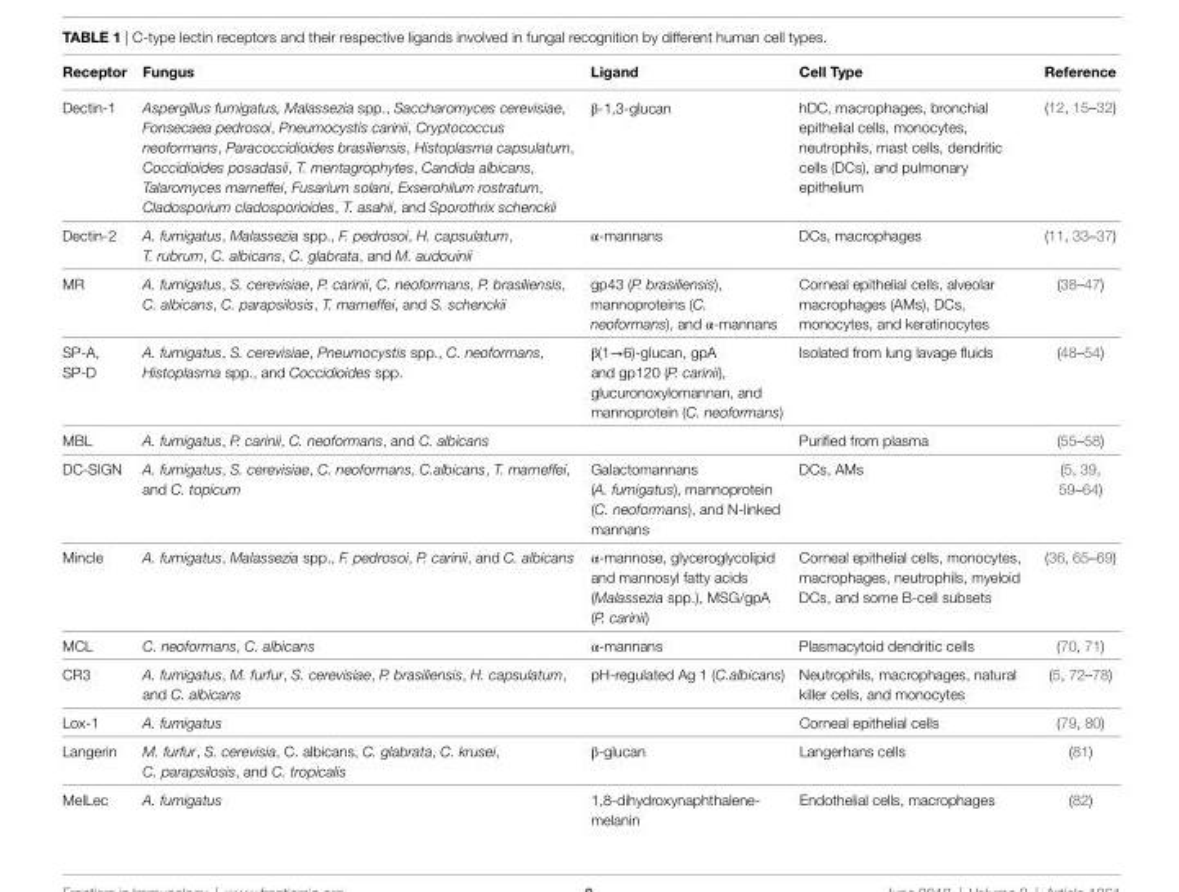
<table><thead><tr><td>Receptor</td><td>Fungus</td><td>Ligand</td><td>Cell Type</td><td>Reference</td></tr></thead><tbody><tr><td>Dectin-1</td><td>Aspergillus fumigatus, Malassezia spp., Saccharomyces cerevisiae, Fonsecaea pedrosoi, Pneumocystis carinii, Cryptococcus neoformans, Paracoccidioides brasiliensis, Histoplasma capsulatum, Coccidioides posadasii, T. mentagrophytes, Candida albicans, Talaromyces marneffei, Fusarium solani, Exserohilum rostratum, Cladosporium cladosporioides, T. asahii, and Sporothrix schenckii</td><td>β-1,3-glucan</td><td>hDC, macrophages, bronchial epithelial cells, monocytes, neutrophils, mast cells, dendritic cells (DCs), and pulmonary epithelium</td><td>(12, 15–32)</td></tr><tr><td>Dectin-2</td><td>A. fumigatus, Malassezia spp., F. pedrosoi, H. capsulatum, T. rubrum, C. albicans, C. glabrata, and M. audouinii</td><td>α-mannans</td><td>DCs, macrophages</td><td>(11, 33–37)</td></tr><tr><td>MR</td><td>A. fumigatus, S. cerevisiae, P. carinii, C. neoformans, P. brasiliensis, C. albicans, C. parapsilosis, T. marneffei, and S. schenckii</td><td>gp43 (P. brasiliensis), mannoproteins (C. neoformans), and α-mannans</td><td>Corneal epithelial cells, alveolar macrophages (AMs), DCs, monocytes, and keratinocytes</td><td>(38–47)</td></tr><tr><td>SP-A, SP-D</td><td>A. fumigatus, S. cerevisiae, Pneumocystis spp., C. neoformans, Histoplasma spp., and Coccidioides spp.</td><td>β(1→6)-glucan, gpA and gp120 (P. carinii), glucuronoxylomannan, and mannoprotein (C. neoformans)</td><td>Isolated from lung lavage fluids</td><td>(48–54)</td></tr><tr><td>MBL</td><td>A. fumigatus, P. carinii, C. neoformans, and C. albicans</td><td></td><td>Purified from plasma</td><td>(55–58)</td></tr><tr><td>DC-SIGN</td><td>A. fumigatus, S. cerevisiae, C. neoformans, C.albicans, T. marneffei, and C. topicum</td><td>Galactomannans (A. fumigatus), mannoprotein (C. neoformans), and N-linked mannans</td><td>DCs, AMs</td><td>(5, 39, 59–64)</td></tr><tr><td>Mincle</td><td>A. fumigatus, Malassezia spp., F. pedrosoi, P. carinii, and C. albicans</td><td>α-mannose, glyceroglycolipid and mannosyl fatty acids (Malassezia spp.), MSG/gpA (P. carinii)</td><td>Corneal epithelial cells, monocytes, macrophages, neutrophils, myeloid DCs, and some B-cell subsets</td><td>(36, 65–69)</td></tr><tr><td>MCL</td><td>C. neoformans, C. albicans</td><td>α-mannans</td><td>Plasmacytoid dendritic cells</td><td>(70, 71)</td></tr><tr><td>CR3</td><td>A. fumigatus, M. furfur, S. cerevisiae, P. brasiliensis, H. capsulatum, and C. albicans</td><td>pH-regulated Ag 1 (C.albicans)</td><td>Neutrophils, macrophages, natural killer cells, and monocytes</td><td>(5, 72–78)</td></tr><tr><td>Lox-1</td><td>A. fumigatus</td><td></td><td>Corneal epithelial cells</td><td>(79, 80)</td></tr><tr><td>Langerin</td><td>M. furfur, S. cerevisia, C. albicans, C. glabrata, C. krusei, C. parapsilosis, and C. tropicalis</td><td>β-glucan</td><td>Langerhans cells</td><td>(81)</td></tr><tr><td>MelLec</td><td>A. fumigatus</td><td>1,8-dihydroxynaphthalene- melanin</td><td>Endothelial cells, macrophages</td><td>(82)</td></tr></tbody></table>